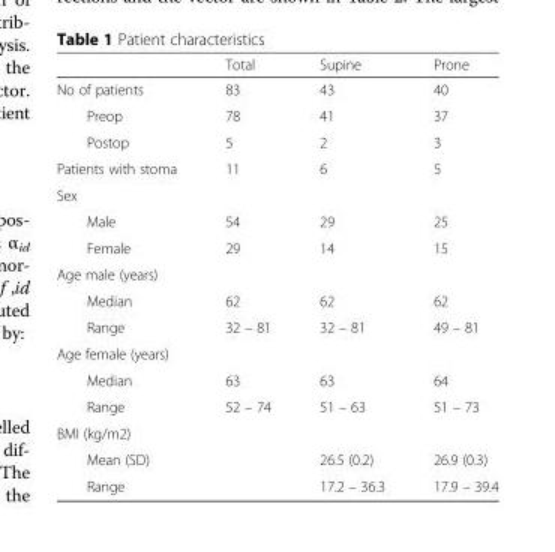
<table><thead><tr><td></td><td>Total</td><td>Supine</td><td>Prone</td></tr></thead><tbody><tr><td>No of patients</td><td>83</td><td>43</td><td>40</td></tr><tr><td>Preop</td><td>78</td><td>41</td><td>37</td></tr><tr><td>Postop</td><td>5</td><td>2</td><td>3</td></tr><tr><td>Patients with stoma</td><td>11</td><td>6</td><td>5</td></tr><tr><td colspan="4">Sex</td></tr><tr><td>Male</td><td>54</td><td>29</td><td>25</td></tr><tr><td>Female</td><td>29</td><td>14</td><td>15</td></tr><tr><td colspan="4">Age male (years)</td></tr><tr><td>Median</td><td>62</td><td>62</td><td>62</td></tr><tr><td>Range</td><td>32 – 81</td><td>32 – 81</td><td>49 – 81</td></tr><tr><td colspan="4">Age female (years)</td></tr><tr><td>Median</td><td>63</td><td>63</td><td>64</td></tr><tr><td>Range</td><td>52 – 74</td><td>51 – 63</td><td>51 – 73</td></tr><tr><td colspan="4">BMI (kg/m2)</td></tr><tr><td>Mean (SD)</td><td></td><td>26.5 (0.2)</td><td>26.9 (0.3)</td></tr><tr><td>Range</td><td></td><td>17.2 – 36.3</td><td>17.9 – 39.4</td></tr></tbody></table>